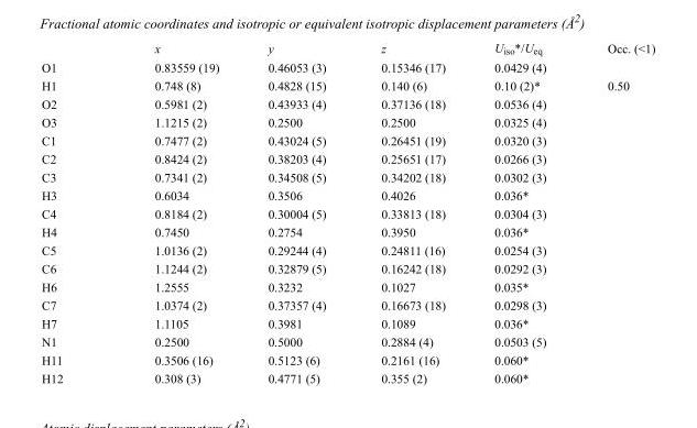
<table><thead><tr><td></td><td>x</td><td>y</td><td>z</td><td>U<sub>iso</sub>*/U<sub>eq</sub></td><td>Occ. (&lt;1)</td></tr></thead><tbody><tr><td>O1</td><td>0.83559 (19)</td><td>0.46053 (3)</td><td>0.15346 (17)</td><td>0.0429 (4)</td><td></td></tr><tr><td>H1</td><td>0.748 (8)</td><td>0.4828 (15)</td><td>0.140 (6)</td><td>0.10 (2)*</td><td>0.50</td></tr><tr><td>O2</td><td>0.5981 (2)</td><td>0.43933 (4)</td><td>0.37136 (18)</td><td>0.0536 (4)</td><td></td></tr><tr><td>O3</td><td>1.1215 (2)</td><td>0.2500</td><td>0.2500</td><td>0.0325 (4)</td><td></td></tr><tr><td>C1</td><td>0.7477 (2)</td><td>0.43024 (5)</td><td>0.26451 (19)</td><td>0.0320 (3)</td><td></td></tr><tr><td>C2</td><td>0.8424 (2)</td><td>0.38203 (4)</td><td>0.25651 (17)</td><td>0.0266 (3)</td><td></td></tr><tr><td>C3</td><td>0.7341 (2)</td><td>0.34508 (5)</td><td>0.34202 (18)</td><td>0.0302 (3)</td><td></td></tr><tr><td>H3</td><td>0.6034</td><td>0.3506</td><td>0.4026</td><td>0.036*</td><td></td></tr><tr><td>C4</td><td>0.8184 (2)</td><td>0.30004 (5)</td><td>0.33813 (18)</td><td>0.0304 (3)</td><td></td></tr><tr><td>H4</td><td>0.7450</td><td>0.2754</td><td>0.3950</td><td>0.036*</td><td></td></tr><tr><td>C5</td><td>1.0136 (2)</td><td>0.29244 (4)</td><td>0.24811 (16)</td><td>0.0254 (3)</td><td></td></tr><tr><td>C6</td><td>1.1244 (2)</td><td>0.32879 (5)</td><td>0.16242 (18)</td><td>0.0292 (3)</td><td></td></tr><tr><td>H6</td><td>1.2555</td><td>0.3232</td><td>0.1027</td><td>0.035*</td><td></td></tr><tr><td>C7</td><td>1.0374 (2)</td><td>0.37357 (4)</td><td>0.16673 (18)</td><td>0.0298 (3)</td><td></td></tr><tr><td>H7</td><td>1.1105</td><td>0.3981</td><td>0.1089</td><td>0.036*</td><td></td></tr><tr><td>N1</td><td>0.2500</td><td>0.5000</td><td>0.2884 (4)</td><td>0.0503 (5)</td><td></td></tr><tr><td>H11</td><td>0.3506 (16)</td><td>0.5123 (6)</td><td>0.2161 (16)</td><td>0.060*</td><td></td></tr><tr><td>H12</td><td>0.308 (3)</td><td>0.4771 (5)</td><td>0.355 (2)</td><td>0.060*</td><td></td></tr></tbody></table>